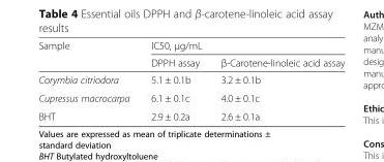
<table><thead><tr><td rowspan="2">Sample</td><td colspan="2">IC50, μg/mL</td></tr><tr><td>DPPH assay</td><td>β-Carotene-linoleic acid assay</td></tr></thead><tbody><tr><td>Corymbia citriodora</td><td>5.1 ± 0.1b</td><td>3.2 ± 0.1b</td></tr><tr><td>Cupressus macrocarpa</td><td>6.1 ± 0.1c</td><td>4.0 ± 0.1c</td></tr><tr><td>BHT</td><td>2.9 ± 0.2a</td><td>2.6 ± 0.1a</td></tr></tbody></table>